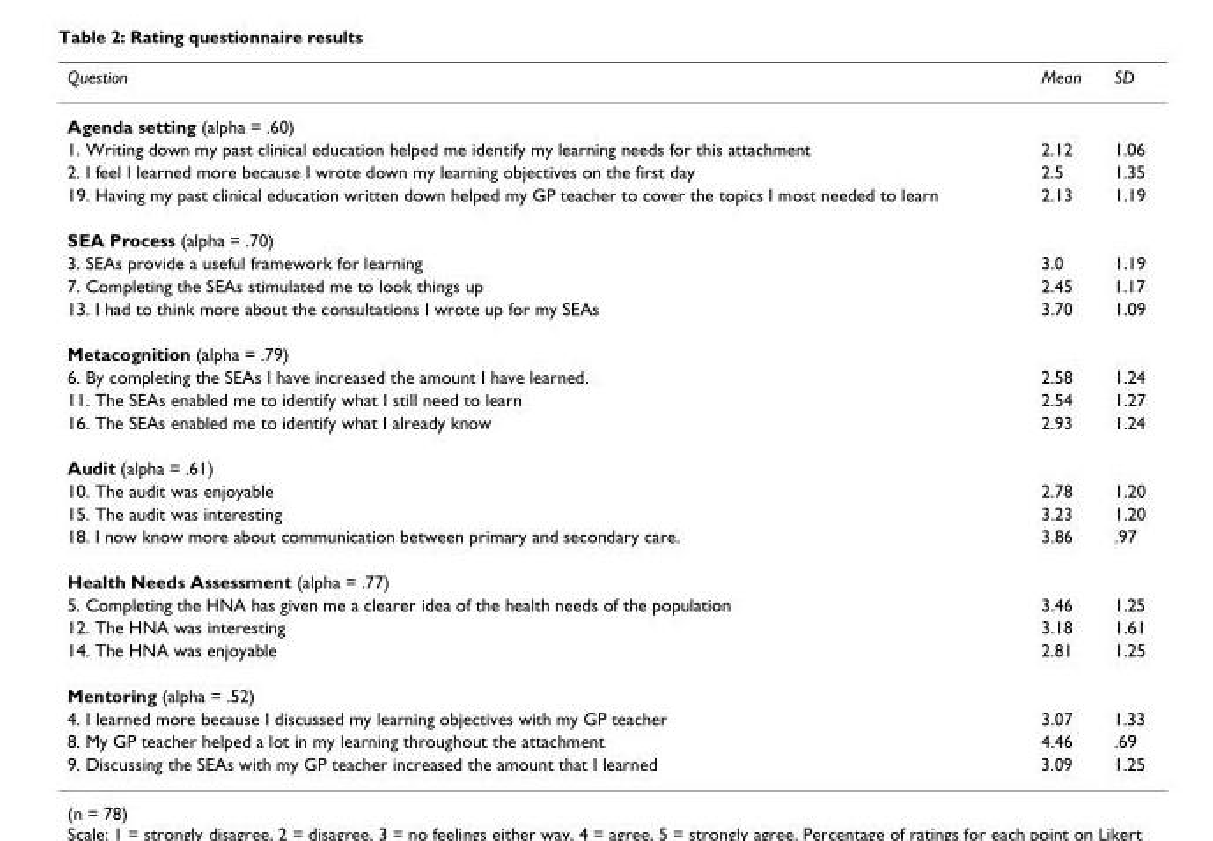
<table><thead><tr><td>Question</td><td>Mean</td><td>SD</td></tr></thead><tbody><tr><td colspan="3">Agenda setting (alpha = .60)</td></tr><tr><td>1. Writing down my past clinical education helped me identify my learning needs for this attachment</td><td>2.12</td><td>1.06</td></tr><tr><td>2. I feel I learned more because I wrote down my learning objectives on the first day</td><td>2.5</td><td>1.35</td></tr><tr><td>19. Having my past clinical education written down helped my GP teacher to cover the topics I most needed to learn</td><td>2.13</td><td>1.19</td></tr><tr><td colspan="3">SEA Process (alpha = .70)</td></tr><tr><td>3. SEAs provide a useful framework for learning</td><td>3.0</td><td>1.19</td></tr><tr><td>7. Completing the SEAs stimulated me to look things up</td><td>2.45</td><td>1.17</td></tr><tr><td>13. I had to think more about the consultations I wrote up for my SEAs</td><td>3.70</td><td>1.09</td></tr><tr><td colspan="3">Metacognition (alpha = .79)</td></tr><tr><td>6. By completing the SEAs I have increased the amount I have learned.</td><td>2.58</td><td>1.24</td></tr><tr><td>11. The SEAs enabled me to identify what I still need to learn</td><td>2.54</td><td>1.27</td></tr><tr><td>16. The SEAs enabled me to identify what I already know</td><td>2.93</td><td>1.24</td></tr><tr><td colspan="3">Audit (alpha = .61)</td></tr><tr><td>10. The audit was enjoyable</td><td>2.78</td><td>1.20</td></tr><tr><td>15. The audit was interesting</td><td>3.23</td><td>1.20</td></tr><tr><td>18. I now know more about communication between primary and secondary care.</td><td>3.86</td><td>.97</td></tr><tr><td colspan="3">Health Needs Assessment (alpha = .77)</td></tr><tr><td>5. Completing the HNA has given me a clearer idea of the health needs of the population</td><td>3.46</td><td>1.25</td></tr><tr><td>12. The HNA was interesting</td><td>3.18</td><td>1.61</td></tr><tr><td>14. The HNA was enjoyable</td><td>2.81</td><td>1.25</td></tr><tr><td colspan="3">Mentoring (alpha = .52)</td></tr><tr><td>4. I learned more because I discussed my learning objectives with my GP teacher</td><td>3.07</td><td>1.33</td></tr><tr><td>8. My GP teacher helped a lot in my learning throughout the attachment</td><td>4.46</td><td>.69</td></tr><tr><td>9. Discussing the SEAs with my GP teacher increased the amount that I learned</td><td>3.09</td><td>1.25</td></tr></tbody></table>